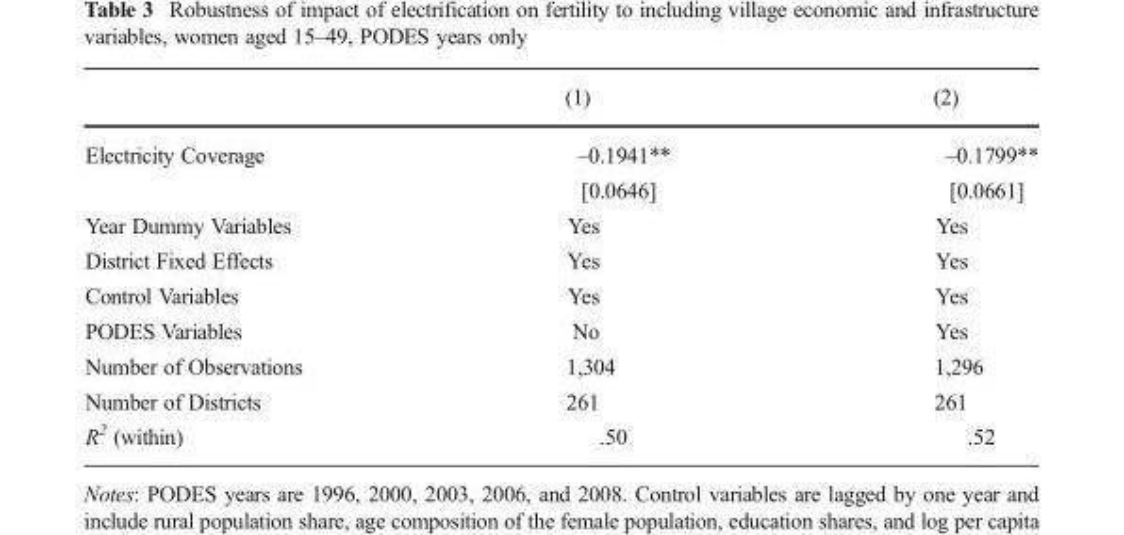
<table><thead><tr><td></td><td>(1)</td><td>(2)</td></tr></thead><tbody><tr><td rowspan="2">Electricity Coverage</td><td>–0.1941**</td><td>–0.1799**</td></tr><tr><td>[0.0646]</td><td>[0.0661]</td></tr><tr><td>Year Dummy Variables</td><td>Yes</td><td>Yes</td></tr><tr><td>District Fixed Effects</td><td>Yes</td><td>Yes</td></tr><tr><td>Control Variables</td><td>Yes</td><td>Yes</td></tr><tr><td>PODES Variables</td><td>No</td><td>Yes</td></tr><tr><td>Number of Observations</td><td>1,304</td><td>1,296</td></tr><tr><td>Number of Districts</td><td>261</td><td>261</td></tr><tr><td>R<sup>2</sup> (within)</td><td>.50</td><td>.52</td></tr></tbody></table>